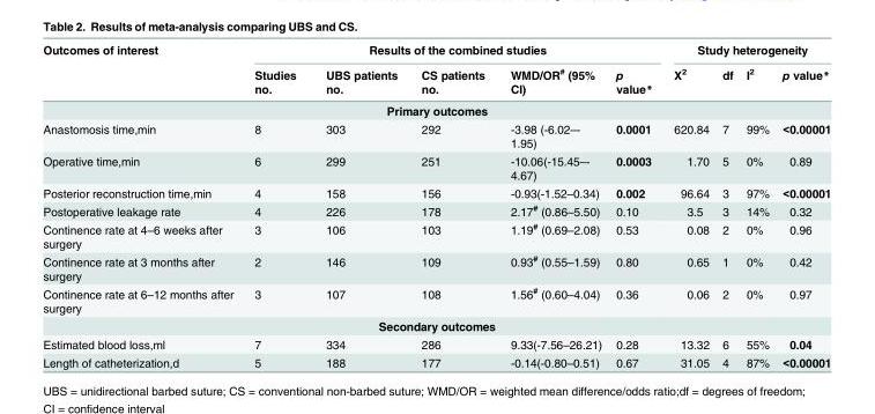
<table><thead><tr><td rowspan="2">Outcomes of interest</td><td colspan="5">Results of the combined studies</td><td colspan="4">Study heterogeneity</td></tr><tr><td>Studies no.</td><td>UBS patients no.</td><td>CS patients no.</td><td>WMD/OR<sup>#</sup> (95% CI)</td><td>p value*</td><td>X<sup>2</sup></td><td>df</td><td>I<sup>2</sup></td><td>p value*</td></tr></thead><tbody><tr><td colspan="10">Primary outcomes</td></tr><tr><td>Anastomosis time,min</td><td>8</td><td>303</td><td>292</td><td>-3.98 (-6.02–- 1.95)</td><td>0.0001</td><td>620.84</td><td>7</td><td>99%</td><td>&lt;0.00001</td></tr><tr><td>Operative time,min</td><td>6</td><td>299</td><td>251</td><td>-10.06(-15.45–- 4.67)</td><td>0.0003</td><td>1.70</td><td>5</td><td>0%</td><td>0.89</td></tr><tr><td>Posterior reconstruction time,min</td><td>4</td><td>158</td><td>156</td><td>-0.93(-1.52–0.34)</td><td>0.002</td><td>96.64</td><td>3</td><td>97%</td><td>&lt;0.00001</td></tr><tr><td>Postoperative leakage rate</td><td>4</td><td>226</td><td>178</td><td>2.17<sup>#</sup> (0.86–5.50)</td><td>0.10</td><td>3.5</td><td>3</td><td>14%</td><td>0.32</td></tr><tr><td>Continence rate at 4–6 weeks after surgery</td><td>3</td><td>106</td><td>103</td><td>1.19<sup>#</sup> (0.69–2.08)</td><td>0.53</td><td>0.08</td><td>2</td><td>0%</td><td>0.96</td></tr><tr><td>Continence rate at 3 months after surgery</td><td>2</td><td>146</td><td>109</td><td>0.93<sup>#</sup> (0.55–1.59)</td><td>0.80</td><td>0.65</td><td>1</td><td>0%</td><td>0.42</td></tr><tr><td>Continence rate at 6–12 months after surgery</td><td>3</td><td>107</td><td>108</td><td>1.56<sup>#</sup> (0.60–4.04)</td><td>0.36</td><td>0.06</td><td>2</td><td>0%</td><td>0.97</td></tr><tr><td colspan="10">Secondary outcomes</td></tr><tr><td>Estimated blood loss,ml</td><td>7</td><td>334</td><td>286</td><td>9.33(-7.56–26.21)</td><td>0.28</td><td>13.32</td><td>6</td><td>55%</td><td>0.04</td></tr><tr><td>Length of catheterization,d</td><td>5</td><td>188</td><td>177</td><td>-0.14(-0.80–0.51)</td><td>0.67</td><td>31.05</td><td>4</td><td>87%</td><td>&lt;0.00001</td></tr></tbody></table>